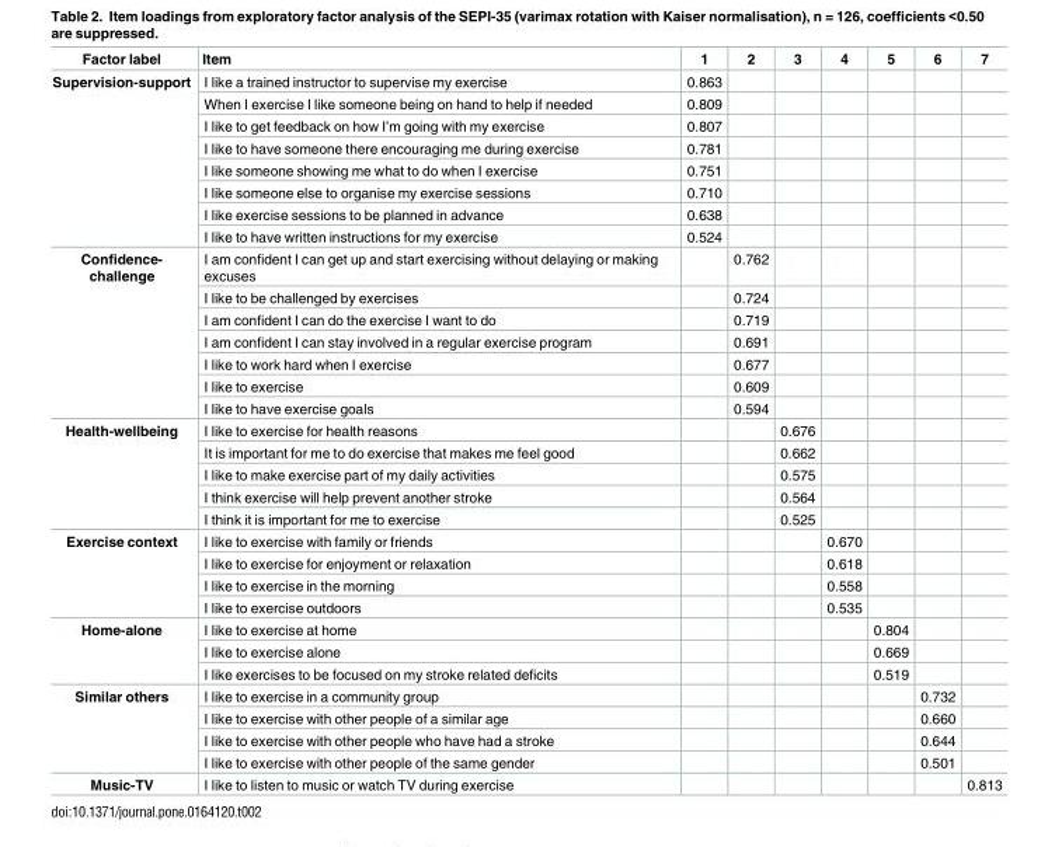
<table><thead><tr><td>Factor label</td><td>Item</td><td>1</td><td>2</td><td>3</td><td>4</td><td>5</td><td>6</td><td>7</td></tr></thead><tbody><tr><td rowspan="8">Supervision-support</td><td>I like a trained instructor to supervise my exercise</td><td>0.863</td><td></td><td></td><td></td><td></td><td></td><td></td></tr><tr><td>When I exercise I like someone being on hand to help if needed</td><td>0.809</td><td></td><td></td><td></td><td></td><td></td><td></td></tr><tr><td>I like to get feedback on how I’m going with my exercise</td><td>0.807</td><td></td><td></td><td></td><td></td><td></td><td></td></tr><tr><td>I like to have someone there encouraging me during exercise</td><td>0.781</td><td></td><td></td><td></td><td></td><td></td><td></td></tr><tr><td>I like someone showing me what to do when I exercise</td><td>0.751</td><td></td><td></td><td></td><td></td><td></td><td></td></tr><tr><td>I like someone else to organise my exercise sessions</td><td>0.710</td><td></td><td></td><td></td><td></td><td></td><td></td></tr><tr><td>I like exercise sessions to be planned in advance</td><td>0.638</td><td></td><td></td><td></td><td></td><td></td><td></td></tr><tr><td>I like to have written instructions for my exercise</td><td>0.524</td><td></td><td></td><td></td><td></td><td></td><td></td></tr><tr><td rowspan="7">Confidence- challenge</td><td>I am confident I can get up and start exercising without delaying or making excuses</td><td></td><td>0.762</td><td></td><td></td><td></td><td></td><td></td></tr><tr><td>I like to be challenged by exercises</td><td></td><td>0.724</td><td></td><td></td><td></td><td></td><td></td></tr><tr><td>I am confident I can do the exercise I want to do</td><td></td><td>0.719</td><td></td><td></td><td></td><td></td><td></td></tr><tr><td>I am confident I can stay involved in a regular exercise program</td><td></td><td>0.691</td><td></td><td></td><td></td><td></td><td></td></tr><tr><td>I like to work hard when I exercise</td><td></td><td>0.677</td><td></td><td></td><td></td><td></td><td></td></tr><tr><td>I like to exercise</td><td></td><td>0.609</td><td></td><td></td><td></td><td></td><td></td></tr><tr><td>I like to have exercise goals</td><td></td><td>0.594</td><td></td><td></td><td></td><td></td><td></td></tr><tr><td rowspan="5">Health-wellbeing</td><td>I like to exercise for health reasons</td><td></td><td></td><td>0.676</td><td></td><td></td><td></td><td></td></tr><tr><td>It is important for me to do exercise that makes me feel good</td><td></td><td></td><td>0.662</td><td></td><td></td><td></td><td></td></tr><tr><td>I like to make exercise part of my daily activities</td><td></td><td></td><td>0.575</td><td></td><td></td><td></td><td></td></tr><tr><td>I think exercise will help prevent another stroke</td><td></td><td></td><td>0.564</td><td></td><td></td><td></td><td></td></tr><tr><td>I think it is important for me to exercise</td><td></td><td></td><td>0.525</td><td></td><td></td><td></td><td></td></tr><tr><td rowspan="4">Exercise context</td><td>I like to exercise with family or friends</td><td></td><td></td><td></td><td>0.670</td><td></td><td></td><td></td></tr><tr><td>I like to exercise for enjoyment or relaxation</td><td></td><td></td><td></td><td>0.618</td><td></td><td></td><td></td></tr><tr><td>I like to exercise in the morning</td><td></td><td></td><td></td><td>0.558</td><td></td><td></td><td></td></tr><tr><td>I like to exercise outdoors</td><td></td><td></td><td></td><td>0.535</td><td></td><td></td><td></td></tr><tr><td rowspan="3">Home-alone</td><td>I like to exercise at home</td><td></td><td></td><td></td><td></td><td>0.804</td><td></td><td></td></tr><tr><td>I like to exercise alone</td><td></td><td></td><td></td><td></td><td>0.669</td><td></td><td></td></tr><tr><td>I like exercises to be focused on my stroke related deficits</td><td></td><td></td><td></td><td></td><td>0.519</td><td></td><td></td></tr><tr><td rowspan="4">Similar others</td><td>I like to exercise in a community group</td><td></td><td></td><td></td><td></td><td></td><td>0.732</td><td></td></tr><tr><td>I like to exercise with other people of a similar age</td><td></td><td></td><td></td><td></td><td></td><td>0.660</td><td></td></tr><tr><td>I like to exercise with other people who have had a stroke</td><td></td><td></td><td></td><td></td><td></td><td>0.644</td><td></td></tr><tr><td>I like to exercise with other people of the same gender</td><td></td><td></td><td></td><td></td><td></td><td>0.501</td><td></td></tr><tr><td>Music-TV</td><td>I like to listen to music or watch TV during exercise</td><td></td><td></td><td></td><td></td><td></td><td></td><td>0.813</td></tr></tbody></table>